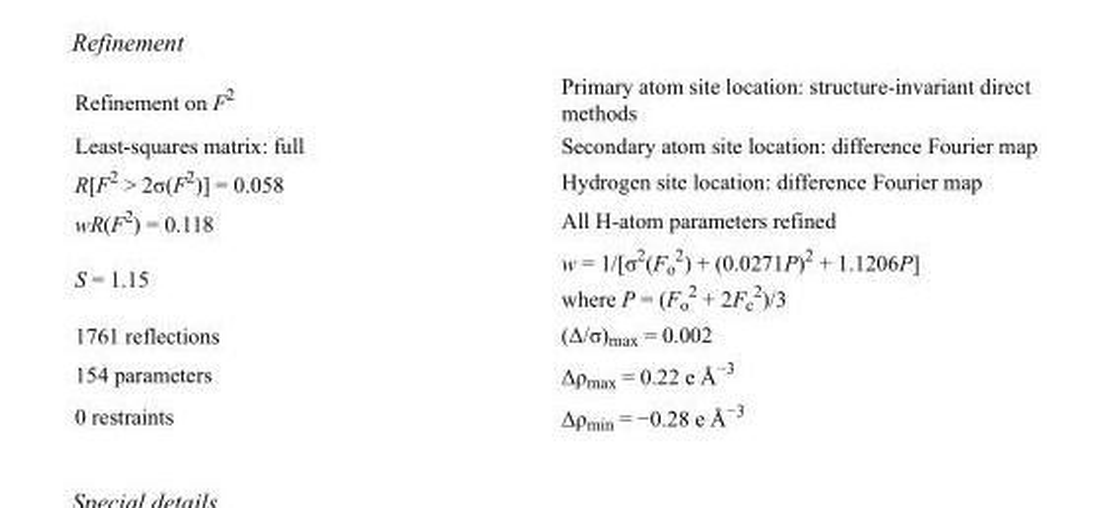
<table><tbody><tr><td>Refinement on F<sup>2</sup></td><td>Primary atom site location: structure-invariant direct methods</td></tr><tr><td>Least-squares matrix: full</td><td>Secondary atom site location: difference Fourier map</td></tr><tr><td>R[F<sup>2</sup> &gt; 2σ(F<sup>2</sup>)] = 0.058</td><td>Hydrogen site location: difference Fourier map</td></tr><tr><td>wR(F<sup>2</sup>) = 0.118</td><td>All H-atom parameters refined</td></tr><tr><td>S = 1.15</td><td>w = 1/[σ<sup>2</sup>(F<sub>o</sub> <sup>2</sup>) + (0.0271P)<sup>2</sup> + 1.1206P] where P = (F<sub>o</sub> <sup>2</sup> + 2F<sub>c</sub> <sup>2</sup>)/3</td></tr><tr><td>1761 reflections</td><td>(Δ/σ)<sub>max</sub> = 0.002</td></tr><tr><td>154 parameters</td><td>Δρ<sub>max</sub> = 0.22 e Å<sup>−3</sup></td></tr><tr><td>0 restraints</td><td>Δρ<sub>min</sub> = −0.28 e Å<sup>−3</sup></td></tr></tbody></table>